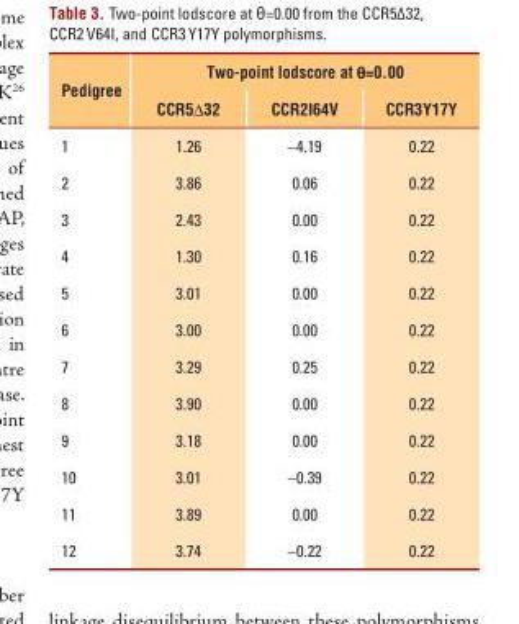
<table><thead><tr><td rowspan="2">Pedigree</td><td colspan="3">Two-point lodscore at θ=0.00</td></tr><tr><td>CCR5∆32</td><td>CCR2I64V</td><td>CCR3Y17Y</td></tr></thead><tbody><tr><td>1</td><td>1.26</td><td>–4.19</td><td>0.22</td></tr><tr><td>2</td><td>3.86</td><td>0.06</td><td>0.22</td></tr><tr><td>3</td><td>2.43</td><td>0.00</td><td>0.22</td></tr><tr><td>4</td><td>1.30</td><td>0.16</td><td>0.22</td></tr><tr><td>5</td><td>3.01</td><td>0.00</td><td>0.22</td></tr><tr><td>6</td><td>3.00</td><td>0.00</td><td>0.22</td></tr><tr><td>7</td><td>3.29</td><td>0.25</td><td>0.22</td></tr><tr><td>8</td><td>3.90</td><td>0.00</td><td>0.22</td></tr><tr><td>9</td><td>3.18</td><td>0.00</td><td>0.22</td></tr><tr><td>10</td><td>3.01</td><td>–0.39</td><td>0.22</td></tr><tr><td>11</td><td>3.89</td><td>0.00</td><td>0.22</td></tr><tr><td>12</td><td>3.74</td><td>–0.22</td><td>0.22</td></tr></tbody></table>